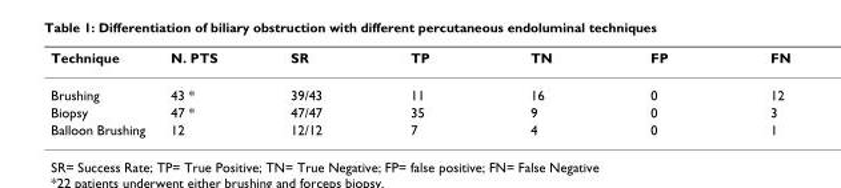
<table><thead><tr><td>Technique</td><td>N. PTS</td><td>SR</td><td>TP</td><td>TN</td><td>FP</td><td>FN</td></tr></thead><tbody><tr><td>Brushing</td><td>43 *</td><td>39/43</td><td>11</td><td>16</td><td>0</td><td>12</td></tr><tr><td>Biopsy</td><td>47 *</td><td>47/47</td><td>35</td><td>9</td><td>0</td><td>3</td></tr><tr><td>Balloon Brushing</td><td>12</td><td>12/12</td><td>7</td><td>4</td><td>0</td><td>1</td></tr></tbody></table>